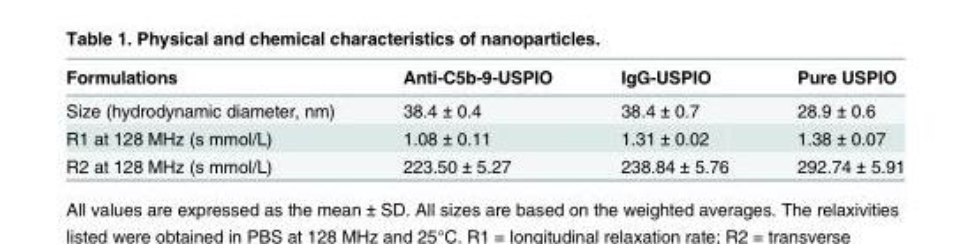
<table><thead><tr><td>Formulations</td><td>Anti-C5b-9-USPIO</td><td>IgG-USPIO</td><td>Pure USPIO</td></tr></thead><tbody><tr><td>Size (hydrodynamic diameter, nm)</td><td>38.4 ± 0.4</td><td>38.4 ± 0.7</td><td>28.9 ± 0.6</td></tr><tr><td>R1 at 128 MHz (s mmol/L)</td><td>1.08 ± 0.11</td><td>1.31 ± 0.02</td><td>1.38 ± 0.07</td></tr><tr><td>R2 at 128 MHz (s mmol/L)</td><td>223.50 ± 5.27</td><td>238.84 ± 5.76</td><td>292.74 ± 5.91</td></tr></tbody></table>